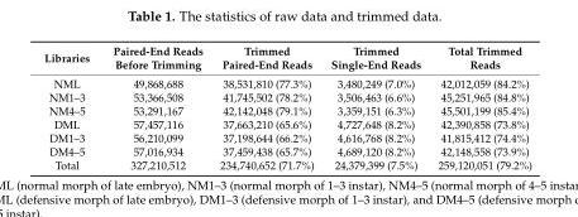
<table><thead><tr><td>Libraries</td><td>Paired-End Reads Before Trimming</td><td>Trimmed Paired-End Reads</td><td>Trimmed Single-End Reads</td><td>Total Trimmed Reads</td></tr></thead><tbody><tr><td>NML</td><td>49,868,688</td><td>38,531,810 (77.3%)</td><td>3,480,249 (7.0%)</td><td>42,012,059 (84.2%)</td></tr><tr><td>NM1–3</td><td>53,366,508</td><td>41,745,502 (78.2%)</td><td>3,506,463 (6.6%)</td><td>45,251,965 (84.8%)</td></tr><tr><td>NM4–5</td><td>53,291,167</td><td>42,142,048 (79.1%)</td><td>3,359,151 (6.3%)</td><td>45,501,199 (85.4%)</td></tr><tr><td>DML</td><td>57,457,116</td><td>37,663,210 (65.6%)</td><td>4,727,648 (8.2%)</td><td>42,390,858 (73.8%)</td></tr><tr><td>DM1–3</td><td>56,210,099</td><td>37,198,644 (66.2%)</td><td>4,616,768 (8.2%)</td><td>41,815,412 (74.4%)</td></tr><tr><td>DM4–5</td><td>57,016,934</td><td>37,459,438 (65.7%)</td><td>4,689,120 (8.2%)</td><td>42,148,558 (73.9%)</td></tr><tr><td>Total</td><td>327,210,512</td><td>234,740,652 (71.7%)</td><td>24,379,399 (7.5%)</td><td>259,120,051 (79.2%)</td></tr></tbody></table>